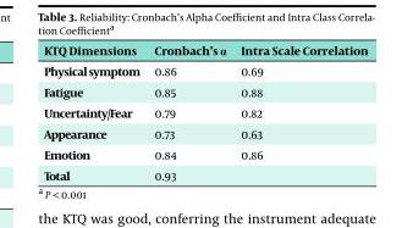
<table><thead><tr><td>KTQ Dimensions</td><td>Cronbach’s α</td><td>Intra Scale Correlation</td></tr></thead><tbody><tr><td>Physical symptom</td><td>0.86</td><td>0.69</td></tr><tr><td>Fatigue</td><td>0.85</td><td>0.88</td></tr><tr><td>Uncertainty/Fear</td><td>0.79</td><td>0.82</td></tr><tr><td>Appearance</td><td>0.73</td><td>0.63</td></tr><tr><td>Emotion</td><td>0.84</td><td>0.86</td></tr><tr><td>Total</td><td>0.93</td><td></td></tr></tbody></table>